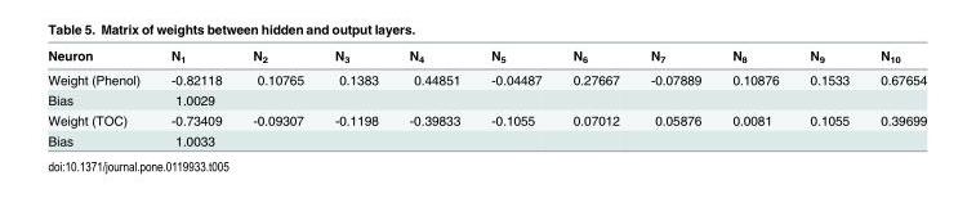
<table><thead><tr><td>Neuron</td><td>N<sub>1</sub></td><td>N<sub>2</sub></td><td>N<sub>3</sub></td><td>N<sub>4</sub></td><td>N<sub>5</sub></td><td>N<sub>6</sub></td><td>N<sub>7</sub></td><td>N<sub>8</sub></td><td>N<sub>9</sub></td><td>N<sub>10</sub></td></tr></thead><tbody><tr><td>Weight (Phenol)</td><td>-0.82118</td><td>0.10765</td><td>0.1383</td><td>0.44851</td><td>-0.04487</td><td>0.27667</td><td>-0.07889</td><td>0.10876</td><td>0.1533</td><td>0.67654</td></tr><tr><td>Bias</td><td>1.0029</td><td></td><td></td><td></td><td></td><td></td><td></td><td></td><td></td><td></td></tr><tr><td>Weight (TOC)</td><td>-0.73409</td><td>-0.09307</td><td>-0.1198</td><td>-0.39833</td><td>-0.1055</td><td>0.07012</td><td>0.05876</td><td>0.0081</td><td>0.1055</td><td>0.39699</td></tr><tr><td>Bias</td><td>1.0033</td><td></td><td></td><td></td><td></td><td></td><td></td><td></td><td></td><td></td></tr></tbody></table>